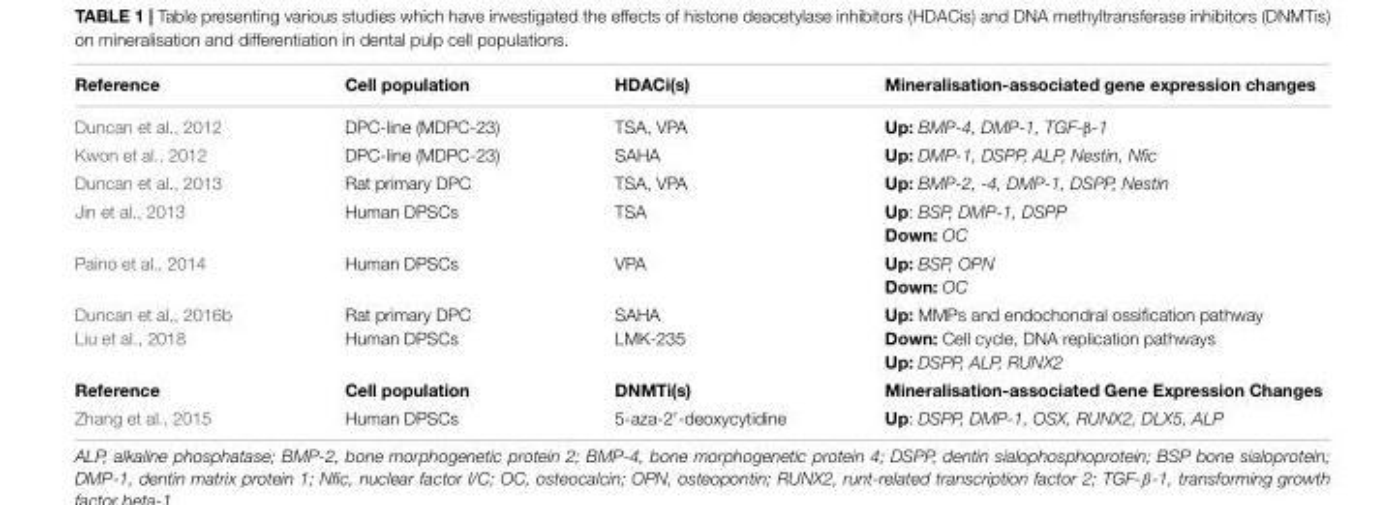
<table><thead><tr><td>Reference</td><td>Cell population</td><td>HDACi(s)</td><td>Mineralisation-associated gene expression changes</td></tr></thead><tbody><tr><td>Duncan et al., 2012</td><td>DPC-line (MDPC-23)</td><td>TSA, VPA</td><td>Up: BMP-4, DMP-1, TGF-β-1</td></tr><tr><td>Kwon et al., 2012</td><td>DPC-line (MDPC-23)</td><td>SAHA</td><td>Up: DMP-1, DSPP, ALP, Nestin, Nfic</td></tr><tr><td>Duncan et al., 2013</td><td>Rat primary DPC</td><td>TSA, VPA</td><td>Up: BMP-2, -4, DMP-1, DSPP, Nestin</td></tr><tr><td rowspan="2">Jin et al., 2013</td><td>Human DPSCs</td><td>TSA</td><td>Up: BSP, DMP-1, DSPP</td></tr><tr><td></td><td></td><td>Down: OC</td></tr><tr><td rowspan="2">Paino et al., 2014</td><td>Human DPSCs</td><td>VPA</td><td>Up: BSP, OPN</td></tr><tr><td></td><td></td><td>Down: OC</td></tr><tr><td>Duncan et al., 2016b</td><td>Rat primary DPC</td><td>SAHA</td><td>Up: MMPs and endochondral ossification pathway</td></tr><tr><td rowspan="2">Liu et al., 2018</td><td>Human DPSCs</td><td>LMK-235</td><td>Down: Cell cycle, DNA replication pathways</td></tr><tr><td></td><td></td><td>Up: DSPP, ALP, RUNX2</td></tr><tr><td>Reference</td><td>Cell population</td><td>DNMTi(s)</td><td>Mineralisation-associated Gene Expression Changes</td></tr><tr><td>Zhang et al., 2015</td><td>Human DPSCs</td><td>5-aza-2′-deoxycytidine</td><td>Up: DSPP, DMP-1, OSX, RUNX2, DLX5, ALP</td></tr></tbody></table>